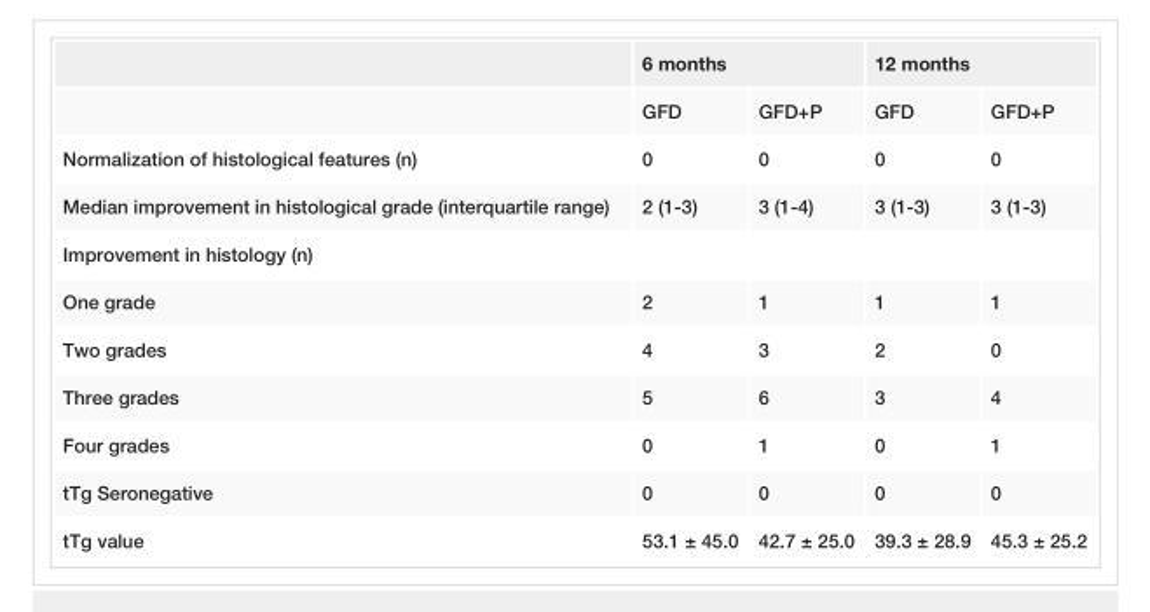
<table><thead><tr><td rowspan="2"></td><td colspan="2">6 months</td><td colspan="2">12 months</td></tr><tr><td>GFD</td><td>GFD+P</td><td>GFD</td><td>GFD+P</td></tr></thead><tbody><tr><td>Normalization of histological features (n)</td><td>0</td><td>0</td><td>0</td><td>0</td></tr><tr><td>Median improvement in histological grade (interquartile range)</td><td>2 (1-3)</td><td>3 (1-4)</td><td>3 (1-3)</td><td>3 (1-3)</td></tr><tr><td colspan="5">Improvement in histology (n)</td></tr><tr><td>One grade</td><td>2</td><td>1</td><td>1</td><td>1</td></tr><tr><td>Two grades</td><td>4</td><td>3</td><td>2</td><td>0</td></tr><tr><td>Three grades</td><td>5</td><td>6</td><td>3</td><td>4</td></tr><tr><td>Four grades</td><td>0</td><td>1</td><td>0</td><td>1</td></tr><tr><td>tTg Seronegative</td><td>0</td><td>0</td><td>0</td><td>0</td></tr><tr><td>tTg value</td><td>53.1 ± 45.0</td><td>42.7 ± 25.0</td><td>39.3 ± 28.9</td><td>45.3 ± 25.2</td></tr></tbody></table>